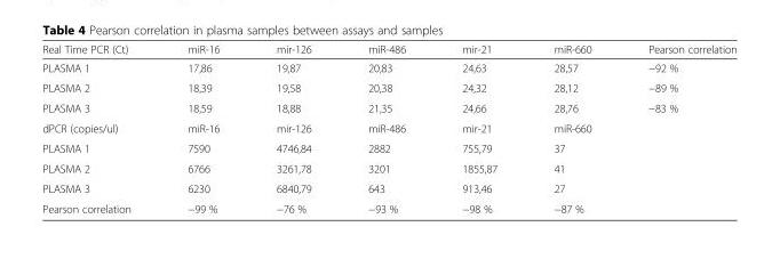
<table><thead><tr><td>Real Time PCR (Ct)</td><td>miR-16</td><td>mir-126</td><td>miR-486</td><td>mir-21</td><td>miR-660</td><td>Pearson correlation</td></tr></thead><tbody><tr><td>PLASMA 1</td><td>17,86</td><td>19,87</td><td>20,83</td><td>24,63</td><td>28,57</td><td>−92 %</td></tr><tr><td>PLASMA 2</td><td>18,39</td><td>19,58</td><td>20,38</td><td>24,32</td><td>28,12</td><td>−89 %</td></tr><tr><td>PLASMA 3</td><td>18,59</td><td>18,88</td><td>21,35</td><td>24,66</td><td>28,76</td><td>−83 %</td></tr><tr><td>dPCR (copies/ul)</td><td>miR-16</td><td>mir-126</td><td>miR-486</td><td>mir-21</td><td>miR-660</td><td></td></tr><tr><td>PLASMA 1</td><td>7590</td><td>4746,84</td><td>2882</td><td>755,79</td><td>37</td><td></td></tr><tr><td>PLASMA 2</td><td>6766</td><td>3261,78</td><td>3201</td><td>1855,87</td><td>41</td><td></td></tr><tr><td>PLASMA 3</td><td>6230</td><td>6840,79</td><td>643</td><td>913,46</td><td>27</td><td></td></tr><tr><td>Pearson correlation</td><td>−99 %</td><td>−76 %</td><td>−93 %</td><td>−98 %</td><td>−87 %</td><td></td></tr></tbody></table>